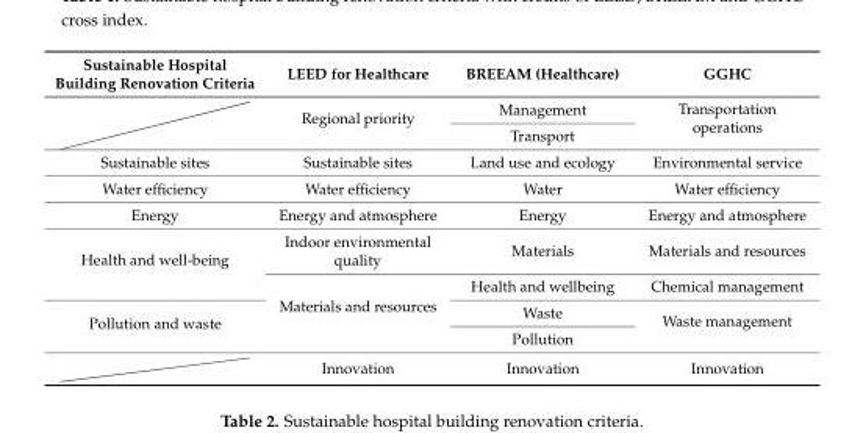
<table><thead><tr><td>Sustainable Hospital Building Renovation Criteria</td><td>LEED for Healthcare</td><td>BREEAM (Healthcare)</td><td>GGHC</td></tr></thead><tbody><tr><td rowspan="2"></td><td rowspan="2">Regional priority</td><td>Management</td><td rowspan="2">Transportation operations</td></tr><tr><td>Transport</td></tr><tr><td>Sustainable sites</td><td>Sustainable sites</td><td>Land use and ecology</td><td>Environmental service</td></tr><tr><td>Water efficiency</td><td>Water efficiency</td><td>Water</td><td>Water efficiency</td></tr><tr><td>Energy</td><td>Energy and atmosphere</td><td>Energy</td><td>Energy and atmosphere</td></tr><tr><td rowspan="2">Health and well-being</td><td>Indoor environmental quality</td><td>Materials</td><td>Materials and resources</td></tr><tr><td rowspan="3">Materials and resources</td><td>Health and wellbeing</td><td>Chemical management</td></tr><tr><td rowspan="3">Pollution and waste</td><td>Waste</td><td rowspan="2">Waste management</td></tr><tr><td>Pollution</td></tr><tr><td>Innovation</td><td>Innovation</td><td>Innovation</td></tr></tbody></table>